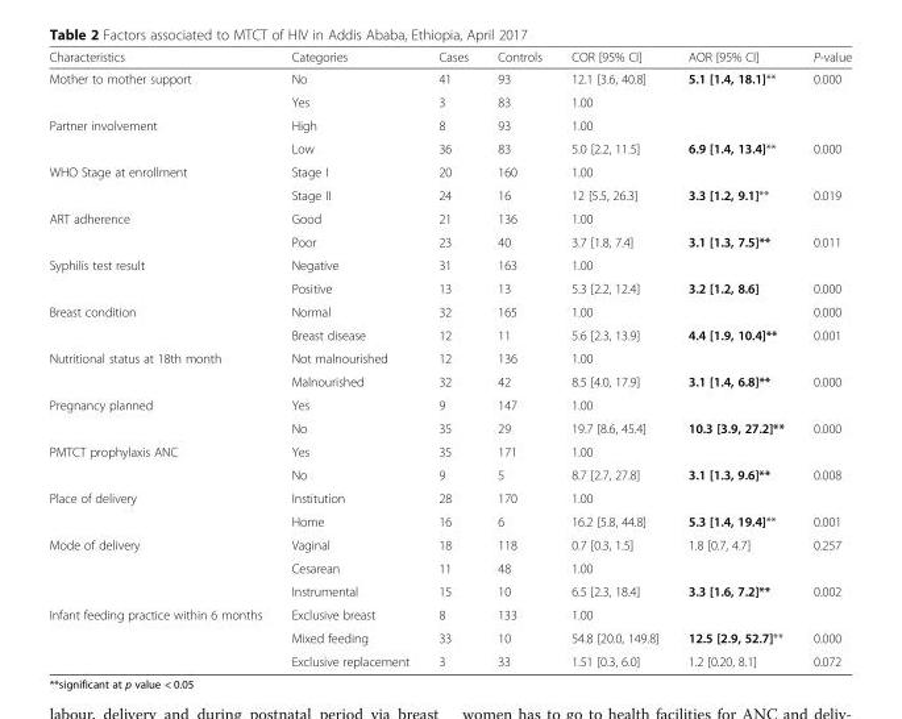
<table><thead><tr><td>Characteristics</td><td>Categories</td><td>Cases</td><td>Controls</td><td>COR [95% CI]</td><td>AOR [95% CI]</td><td>P-value</td></tr></thead><tbody><tr><td rowspan="2">Mother to mother support</td><td>No</td><td>41</td><td>93</td><td>12.1 [3.6, 40.8]</td><td>5.1 [1.4, 18.1]**</td><td>0.000</td></tr><tr><td>Yes</td><td>3</td><td>83</td><td>1.00</td><td></td><td></td></tr><tr><td rowspan="2">Partner involvement</td><td>High</td><td>8</td><td>93</td><td>1.00</td><td></td><td></td></tr><tr><td>Low</td><td>36</td><td>83</td><td>5.0 [2.2, 11.5]</td><td>6.9 [1.4, 13.4]**</td><td>0.000</td></tr><tr><td rowspan="2">WHO Stage at enrollment</td><td>Stage I</td><td>20</td><td>160</td><td>1.00</td><td></td><td></td></tr><tr><td>Stage II</td><td>24</td><td>16</td><td>12 [5.5, 26.3]</td><td>3.3 [1.2, 9.1]**</td><td>0.019</td></tr><tr><td rowspan="2">ART adherence</td><td>Good</td><td>21</td><td>136</td><td>1.00</td><td></td><td></td></tr><tr><td>Poor</td><td>23</td><td>40</td><td>3.7 [1.8, 7.4]</td><td>3.1 [1.3, 7.5]**</td><td>0.011</td></tr><tr><td rowspan="2">Syphilis test result</td><td>Negative</td><td>31</td><td>163</td><td>1.00</td><td></td><td></td></tr><tr><td>Positive</td><td>13</td><td>13</td><td>5.3 [2.2, 12.4]</td><td>3.2 [1.2, 8.6]</td><td>0.000</td></tr><tr><td rowspan="2">Breast condition</td><td>Normal</td><td>32</td><td>165</td><td>1.00</td><td></td><td>0.000</td></tr><tr><td>Breast disease</td><td>12</td><td>11</td><td>5.6 [2.3, 13.9]</td><td>4.4 [1.9, 10.4]**</td><td>0.001</td></tr><tr><td rowspan="2">Nutritional status at 18th month</td><td>Not malnourished</td><td>12</td><td>136</td><td>1.00</td><td></td><td></td></tr><tr><td>Malnourished</td><td>32</td><td>42</td><td>8.5 [4.0, 17.9]</td><td>3.1 [1.4, 6.8]**</td><td>0.000</td></tr><tr><td rowspan="2">Pregnancy planned</td><td>Yes</td><td>9</td><td>147</td><td>1.00</td><td></td><td></td></tr><tr><td>No</td><td>35</td><td>29</td><td>19.7 [8.6, 45.4]</td><td>10.3 [3.9, 27.2]**</td><td>0.000</td></tr><tr><td rowspan="2">PMTCT prophylaxis ANC</td><td>Yes</td><td>35</td><td>171</td><td>1.00</td><td></td><td></td></tr><tr><td>No</td><td>9</td><td>5</td><td>8.7 [2.7, 27.8]</td><td>3.1 [1.3, 9.6]**</td><td>0.008</td></tr><tr><td rowspan="2">Place of delivery</td><td>Institution</td><td>28</td><td>170</td><td>1.00</td><td></td><td></td></tr><tr><td>Home</td><td>16</td><td>6</td><td>16.2 [5.8, 44.8]</td><td>5.3 [1.4, 19.4]**</td><td>0.001</td></tr><tr><td rowspan="3">Mode of delivery</td><td>Vaginal</td><td>18</td><td>118</td><td>0.7 [0.3, 1.5]</td><td>1.8 [0.7, 4.7]</td><td>0.257</td></tr><tr><td>Cesarean</td><td>11</td><td>48</td><td>1.00</td><td></td><td></td></tr><tr><td>Instrumental</td><td>15</td><td>10</td><td>6.5 [2.3, 18.4]</td><td>3.3 [1.6, 7.2]**</td><td>0.002</td></tr><tr><td rowspan="3">Infant feeding practice within 6 months</td><td>Exclusive breast</td><td>8</td><td>133</td><td>1.00</td><td></td><td></td></tr><tr><td>Mixed feeding</td><td>33</td><td>10</td><td>54.8 [20.0, 149.8]</td><td>12.5 [2.9, 52.7]**</td><td>0.000</td></tr><tr><td>Exclusive replacement</td><td>3</td><td>33</td><td>1.51 [0.3, 6.0]</td><td>1.2 [0.20, 8.1]</td><td>0.072</td></tr></tbody></table>